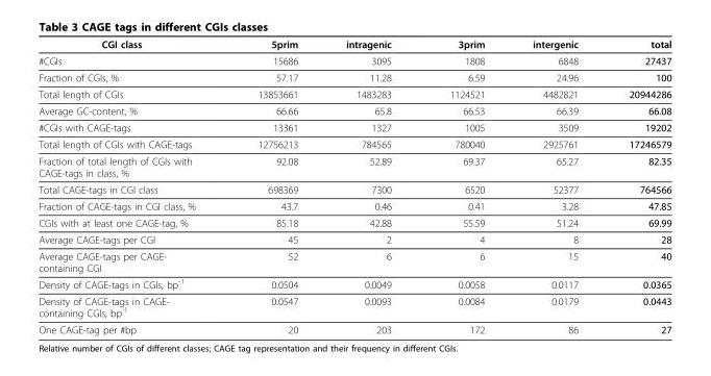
<table><thead><tr><td>CGI class</td><td>5prim</td><td>intragenic</td><td>3prim</td><td>intergenic</td><td>total</td></tr></thead><tbody><tr><td>#CGIs</td><td>15686</td><td>3095</td><td>1808</td><td>6848</td><td>27437</td></tr><tr><td>Fraction of CGIs, %</td><td>57.17</td><td>11.28</td><td>6.59</td><td>24.96</td><td>100</td></tr><tr><td>Total length of CGIs</td><td>13853661</td><td>1483283</td><td>1124521</td><td>4482821</td><td>20944286</td></tr><tr><td>Average GC-content, %</td><td>66.66</td><td>65.8</td><td>66.53</td><td>66.39</td><td>66.08</td></tr><tr><td>#CGIs with CAGE-tags</td><td>13361</td><td>1327</td><td>1005</td><td>3509</td><td>19202</td></tr><tr><td>Total length of CGIs with CAGE-tags</td><td>12756213</td><td>784565</td><td>780040</td><td>2925761</td><td>17246579</td></tr><tr><td>Fraction of total length of CGIs with CAGE-tags in class, %</td><td>92.08</td><td>52.89</td><td>69.37</td><td>65.27</td><td>82.35</td></tr><tr><td>Total CAGE-tags in CGI class</td><td>698369</td><td>7300</td><td>6520</td><td>52377</td><td>764566</td></tr><tr><td>Fraction of CAGE-tags in CGI class, %</td><td>43.7</td><td>0.46</td><td>0.41</td><td>3.28</td><td>47.85</td></tr><tr><td>CGIs with at least one CAGE-tag, %</td><td>85.18</td><td>42.88</td><td>55.59</td><td>51.24</td><td>69.99</td></tr><tr><td>Average CAGE-tags per CGI</td><td>45</td><td>2</td><td>4</td><td>8</td><td>28</td></tr><tr><td>Average CAGE-tags per CAGE- containing CGI</td><td>52</td><td>6</td><td>6</td><td>15</td><td>40</td></tr><tr><td>Density of CAGE-tags in CGIs, bp<sup>-1</sup></td><td>0.0504</td><td>0.0049</td><td>0.0058</td><td>0.0117</td><td>0.0365</td></tr><tr><td>Density of CAGE-tags in CAGE- containing CGIs, bp<sup>-1</sup></td><td>0.0547</td><td>0.0093</td><td>0.0084</td><td>0.0179</td><td>0.0443</td></tr><tr><td>One CAGE-tag per #bp</td><td>20</td><td>203</td><td>172</td><td>86</td><td>27</td></tr></tbody></table>